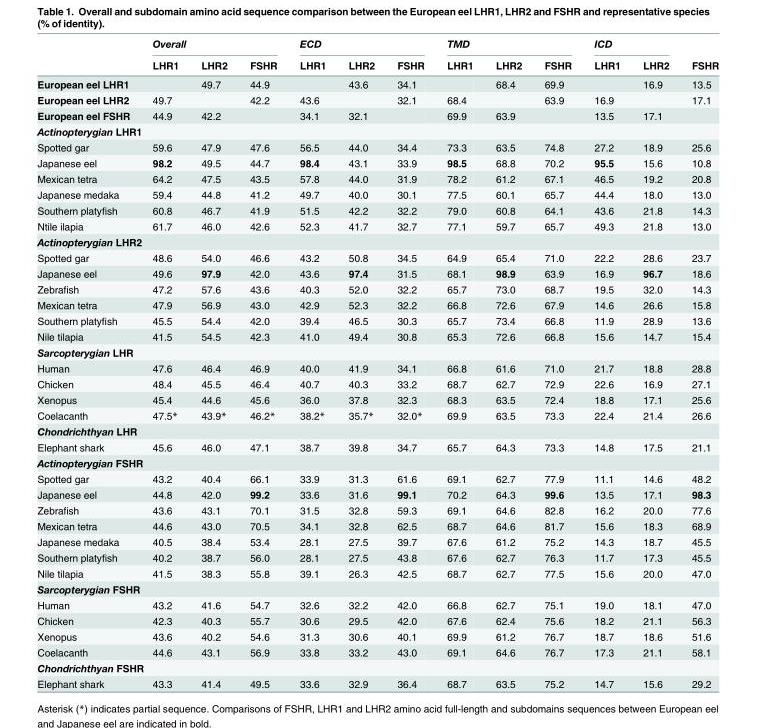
<table><thead><tr><td rowspan="2"></td><td colspan="3">Overall</td><td colspan="3">ECD</td><td colspan="3">TMD</td><td colspan="2">ICD</td><td rowspan="2">FSHR</td></tr><tr><td>LHR1</td><td>LHR2</td><td>FSHR</td><td>LHR1</td><td>LHR2</td><td>FSHR</td><td>LHR1</td><td>LHR2</td><td>FSHR</td><td>LHR1</td><td>LHR2</td></tr></thead><tbody><tr><td>European eel LHR1</td><td></td><td>49.7</td><td>44.9</td><td></td><td>43.6</td><td>34.1</td><td></td><td>68.4</td><td>69.9</td><td></td><td>16.9</td><td>13.5</td></tr><tr><td>European eel LHR2</td><td>49.7</td><td></td><td>42.2</td><td>43.6</td><td></td><td>32.1</td><td>68.4</td><td></td><td>63.9</td><td>16.9</td><td></td><td>17.1</td></tr><tr><td>European eel FSHR</td><td>44.9</td><td>42.2</td><td></td><td>34.1</td><td>32.1</td><td></td><td>69.9</td><td>63.9</td><td></td><td>13.5</td><td>17.1</td><td></td></tr><tr><td colspan="13">Actinopterygian LHR1</td></tr><tr><td>Spotted gar</td><td>59.6</td><td>47.9</td><td>47.6</td><td>56.5</td><td>44.0</td><td>34.4</td><td>73.3</td><td>63.5</td><td>74.8</td><td>27.2</td><td>18.9</td><td>25.6</td></tr><tr><td>Japanese eel</td><td>98.2</td><td>49.5</td><td>44.7</td><td>98.4</td><td>43.1</td><td>33.9</td><td>98.5</td><td>68.8</td><td>70.2</td><td>95.5</td><td>15.6</td><td>10.8</td></tr><tr><td>Mexican tetra</td><td>64.2</td><td>47.5</td><td>43.5</td><td>57.8</td><td>44.0</td><td>31.9</td><td>78.2</td><td>61.2</td><td>67.1</td><td>46.5</td><td>19.2</td><td>20.8</td></tr><tr><td>Japanese medaka</td><td>59.4</td><td>44.8</td><td>41.2</td><td>49.7</td><td>40.0</td><td>30.1</td><td>77.5</td><td>60.1</td><td>65.7</td><td>44.4</td><td>18.0</td><td>13.0</td></tr><tr><td>Southern platyfish</td><td>60.8</td><td>46.7</td><td>41.9</td><td>51.5</td><td>42.2</td><td>32.2</td><td>79.0</td><td>60.8</td><td>64.1</td><td>43.6</td><td>21.8</td><td>14.3</td></tr><tr><td>Ntile ilapia</td><td>61.7</td><td>46.0</td><td>42.6</td><td>52.3</td><td>41.7</td><td>32.7</td><td>77.1</td><td>59.7</td><td>65.7</td><td>49.3</td><td>21.8</td><td>13.0</td></tr><tr><td colspan="13">Actinopterygian LHR2</td></tr><tr><td>Spotted gar</td><td>48.6</td><td>54.0</td><td>46.6</td><td>43.2</td><td>50.8</td><td>34.5</td><td>64.9</td><td>65.4</td><td>71.0</td><td>22.2</td><td>28.6</td><td>23.7</td></tr><tr><td>Japanese eel</td><td>49.6</td><td>97.9</td><td>42.0</td><td>43.6</td><td>97.4</td><td>31.5</td><td>68.1</td><td>98.9</td><td>63.9</td><td>16.9</td><td>96.7</td><td>18.6</td></tr><tr><td>Zebrafish</td><td>47.2</td><td>57.6</td><td>43.6</td><td>40.3</td><td>52.0</td><td>32.2</td><td>65.7</td><td>73.0</td><td>68.7</td><td>19.5</td><td>32.0</td><td>14.3</td></tr><tr><td>Mexican tetra</td><td>47.9</td><td>56.9</td><td>43.0</td><td>42.9</td><td>52.3</td><td>32.2</td><td>66.8</td><td>72.6</td><td>67.9</td><td>14.6</td><td>26.6</td><td>15.8</td></tr><tr><td>Southern platyfish</td><td>45.5</td><td>54.4</td><td>42.0</td><td>39.4</td><td>46.5</td><td>30.3</td><td>65.7</td><td>73.4</td><td>66.8</td><td>11.9</td><td>28.9</td><td>13.6</td></tr><tr><td>Nile tilapia</td><td>41.5</td><td>54.5</td><td>42.3</td><td>41.0</td><td>49.4</td><td>30.8</td><td>65.3</td><td>72.6</td><td>66.8</td><td>15.6</td><td>14.7</td><td>15.4</td></tr><tr><td colspan="13">Sarcopterygian LHR</td></tr><tr><td>Human</td><td>47.6</td><td>46.4</td><td>46.9</td><td>40.0</td><td>41.9</td><td>34.1</td><td>66.8</td><td>61.6</td><td>71.0</td><td>21.7</td><td>18.8</td><td>28.8</td></tr><tr><td>Chicken</td><td>48.4</td><td>45.5</td><td>46.4</td><td>40.7</td><td>40.3</td><td>33.2</td><td>68.7</td><td>62.7</td><td>72.9</td><td>22.6</td><td>16.9</td><td>27.1</td></tr><tr><td>Xenopus</td><td>45.4</td><td>44.6</td><td>45.6</td><td>36.0</td><td>37.8</td><td>32.3</td><td>68.3</td><td>63.5</td><td>72.4</td><td>18.8</td><td>17.1</td><td>25.6</td></tr><tr><td>Coelacanth</td><td>47.5*</td><td>43.9*</td><td>46.2*</td><td>38.2*</td><td>35.7*</td><td>32.0*</td><td>69.9</td><td>63.5</td><td>73.3</td><td>22.4</td><td>21.4</td><td>26.6</td></tr><tr><td colspan="13">Chondrichthyan LHR</td></tr><tr><td>Elephant shark</td><td>45.6</td><td>46.0</td><td>47.1</td><td>38.7</td><td>39.8</td><td>34.7</td><td>65.7</td><td>64.3</td><td>73.3</td><td>14.8</td><td>17.5</td><td>21.1</td></tr><tr><td colspan="13">Actinopterygian FSHR</td></tr><tr><td>Spotted gar</td><td>43.2</td><td>40.4</td><td>66.1</td><td>33.9</td><td>31.3</td><td>61.6</td><td>69.1</td><td>62.7</td><td>77.9</td><td>11.1</td><td>14.6</td><td>48.2</td></tr><tr><td>Japanese eel</td><td>44.8</td><td>42.0</td><td>99.2</td><td>33.6</td><td>31.6</td><td>99.1</td><td>70.2</td><td>64.3</td><td>99.6</td><td>13.5</td><td>17.1</td><td>98.3</td></tr><tr><td>Zebrafish</td><td>43.6</td><td>43.1</td><td>70.1</td><td>31.5</td><td>32.8</td><td>59.3</td><td>69.1</td><td>64.6</td><td>82.8</td><td>16.2</td><td>20.0</td><td>77.6</td></tr><tr><td>Mexican tetra</td><td>44.6</td><td>43.0</td><td>70.5</td><td>34.1</td><td>32.8</td><td>62.5</td><td>68.7</td><td>64.6</td><td>81.7</td><td>15.6</td><td>18.3</td><td>68.9</td></tr><tr><td>Japanese medaka</td><td>40.5</td><td>38.4</td><td>53.4</td><td>28.1</td><td>27.5</td><td>39.7</td><td>67.6</td><td>61.2</td><td>75.2</td><td>14.3</td><td>18.7</td><td>45.5</td></tr><tr><td>Southern platyfish</td><td>40.2</td><td>38.7</td><td>56.0</td><td>28.1</td><td>27.5</td><td>43.8</td><td>67.6</td><td>62.7</td><td>76.3</td><td>11.7</td><td>17.3</td><td>45.5</td></tr><tr><td>Nile tilapia</td><td>41.5</td><td>38.3</td><td>55.8</td><td>39.1</td><td>26.3</td><td>42.5</td><td>68.7</td><td>62.7</td><td>77.5</td><td>15.6</td><td>20.0</td><td>47.0</td></tr><tr><td colspan="13">Sarcopterygian FSHR</td></tr><tr><td>Human</td><td>43.2</td><td>41.6</td><td>54.7</td><td>32.6</td><td>32.2</td><td>42.0</td><td>66.8</td><td>62.7</td><td>75.1</td><td>19.0</td><td>18.1</td><td>47.0</td></tr><tr><td>Chicken</td><td>42.3</td><td>40.3</td><td>55.7</td><td>30.6</td><td>29.5</td><td>42.0</td><td>67.6</td><td>62.4</td><td>75.6</td><td>18.2</td><td>21.1</td><td>56.3</td></tr><tr><td>Xenopus</td><td>43.6</td><td>40.2</td><td>54.6</td><td>31.3</td><td>30.6</td><td>40.1</td><td>69.9</td><td>61.2</td><td>76.7</td><td>18.7</td><td>18.6</td><td>51.6</td></tr><tr><td>Coelacanth</td><td>44.6</td><td>43.1</td><td>56.9</td><td>33.8</td><td>33.2</td><td>43.0</td><td>69.1</td><td>64.6</td><td>76.7</td><td>17.3</td><td>21.1</td><td>58.1</td></tr><tr><td colspan="13">Chondrichthyan FSHR</td></tr><tr><td>Elephant shark</td><td>43.3</td><td>41.4</td><td>49.5</td><td>33.6</td><td>32.9</td><td>36.4</td><td>68.7</td><td>63.5</td><td>75.2</td><td>14.7</td><td>15.6</td><td>29.2</td></tr></tbody></table>